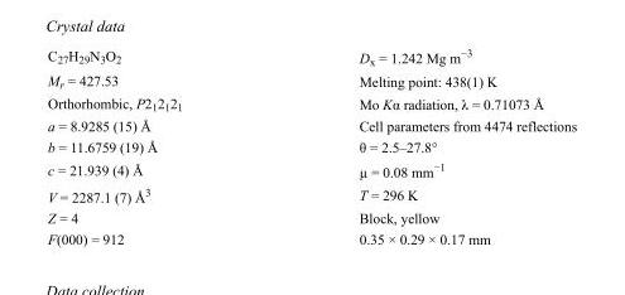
<table><tbody><tr><td>C<sub>27</sub>H<sub>29</sub>N<sub>3</sub>O<sub>2</sub></td><td>D<sub>x</sub> = 1.242 Mg m<sup>−3</sup></td></tr><tr><td>M<sub>r</sub> = 427.53</td><td>Melting point: 438(1) K</td></tr><tr><td>Orthorhombic, P2<sub>1</sub>2<sub>1</sub>2<sub>1</sub></td><td>Mo Kα radiation, λ = 0.71073 Å</td></tr><tr><td>a = 8.9285 (15) Å</td><td>Cell parameters from 4474 reflections</td></tr><tr><td>b = 11.6759 (19) Å</td><td>θ = 2.5–27.8°</td></tr><tr><td>c = 21.939 (4) Å</td><td>µ = 0.08 mm<sup>−1</sup></td></tr><tr><td>V = 2287.1 (7) Å<sup>3</sup></td><td>T = 296 K</td></tr><tr><td>Z = 4</td><td>Block, yellow</td></tr><tr><td>F(000) = 912</td><td>0.35 × 0.29 × 0.17 mm</td></tr></tbody></table>